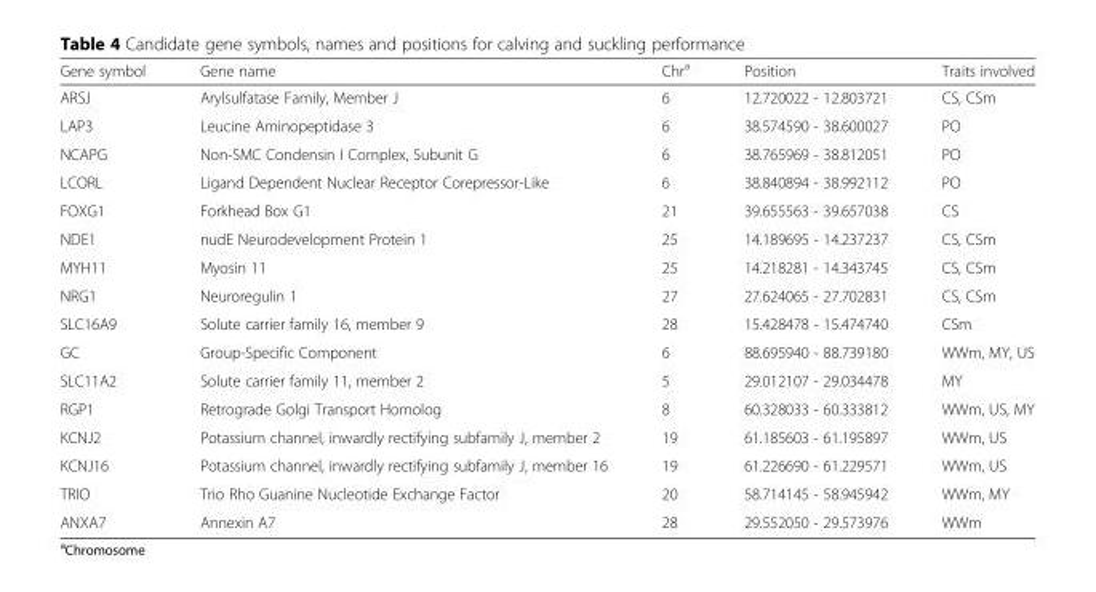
<table><thead><tr><td>Gene symbol</td><td>Gene name</td><td>Chr<sup>a</sup></td><td>Position</td><td>Traits involved</td></tr></thead><tbody><tr><td>ARSJ</td><td>Arylsulfatase Family, Member J</td><td>6</td><td>12.720022 - 12.803721</td><td>CS, CSm</td></tr><tr><td>LAP3</td><td>Leucine Aminopeptidase 3</td><td>6</td><td>38.574590 - 38.600027</td><td>PO</td></tr><tr><td>NCAPG</td><td>Non-SMC Condensin I Complex, Subunit G</td><td>6</td><td>38.765969 - 38.812051</td><td>PO</td></tr><tr><td>LCORL</td><td>Ligand Dependent Nuclear Receptor Corepressor-Like</td><td>6</td><td>38.840894 - 38.992112</td><td>PO</td></tr><tr><td>FOXG1</td><td>Forkhead Box G1</td><td>21</td><td>39.655563 - 39.657038</td><td>CS</td></tr><tr><td>NDE1</td><td>nudE Neurodevelopment Protein 1</td><td>25</td><td>14.189695 - 14.237237</td><td>CS, CSm</td></tr><tr><td>MYH11</td><td>Myosin 11</td><td>25</td><td>14.218281 - 14.343745</td><td>CS, CSm</td></tr><tr><td>NRG1</td><td>Neuroregulin 1</td><td>27</td><td>27.624065 - 27.702831</td><td>CS, CSm</td></tr><tr><td>SLC16A9</td><td>Solute carrier family 16, member 9</td><td>28</td><td>15.428478 - 15.474740</td><td>CSm</td></tr><tr><td>GC</td><td>Group-Specific Component</td><td>6</td><td>88.695940 - 88.739180</td><td>WWm, MY, US</td></tr><tr><td>SLC11A2</td><td>Solute carrier family 11, member 2</td><td>5</td><td>29.012107 - 29.034478</td><td>MY</td></tr><tr><td>RGP1</td><td>Retrograde Golgi Transport Homolog</td><td>8</td><td>60.328033 - 60.333812</td><td>WWm, US, MY</td></tr><tr><td>KCNJ2</td><td>Potassium channel, inwardly rectifying subfamily J, member 2</td><td>19</td><td>61.185603 - 61.195897</td><td>WWm, US</td></tr><tr><td>KCNJ16</td><td>Potassium channel, inwardly rectifying subfamily J, member 16</td><td>19</td><td>61.226690 - 61.229571</td><td>WWm, US</td></tr><tr><td>TRIO</td><td>Trio Rho Guanine Nucleotide Exchange Factor</td><td>20</td><td>58.714145 - 58.945942</td><td>WWm, MY</td></tr><tr><td>ANXA7</td><td>Annexin A7</td><td>28</td><td>29.552050 - 29.573976</td><td>WWm</td></tr></tbody></table>